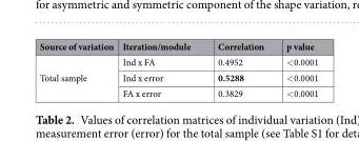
<table><thead><tr><td>Source of variation</td><td>Iteration/module</td><td>Correlation</td><td>p value</td></tr></thead><tbody><tr><td rowspan="3">Total sample</td><td>Ind x FA</td><td>0.4952</td><td>&lt;0.0001</td></tr><tr><td>Ind x error</td><td>0.5288</td><td>&lt;0.0001</td></tr><tr><td>FA x error</td><td>0.3829</td><td>&lt;0.0001</td></tr></tbody></table>